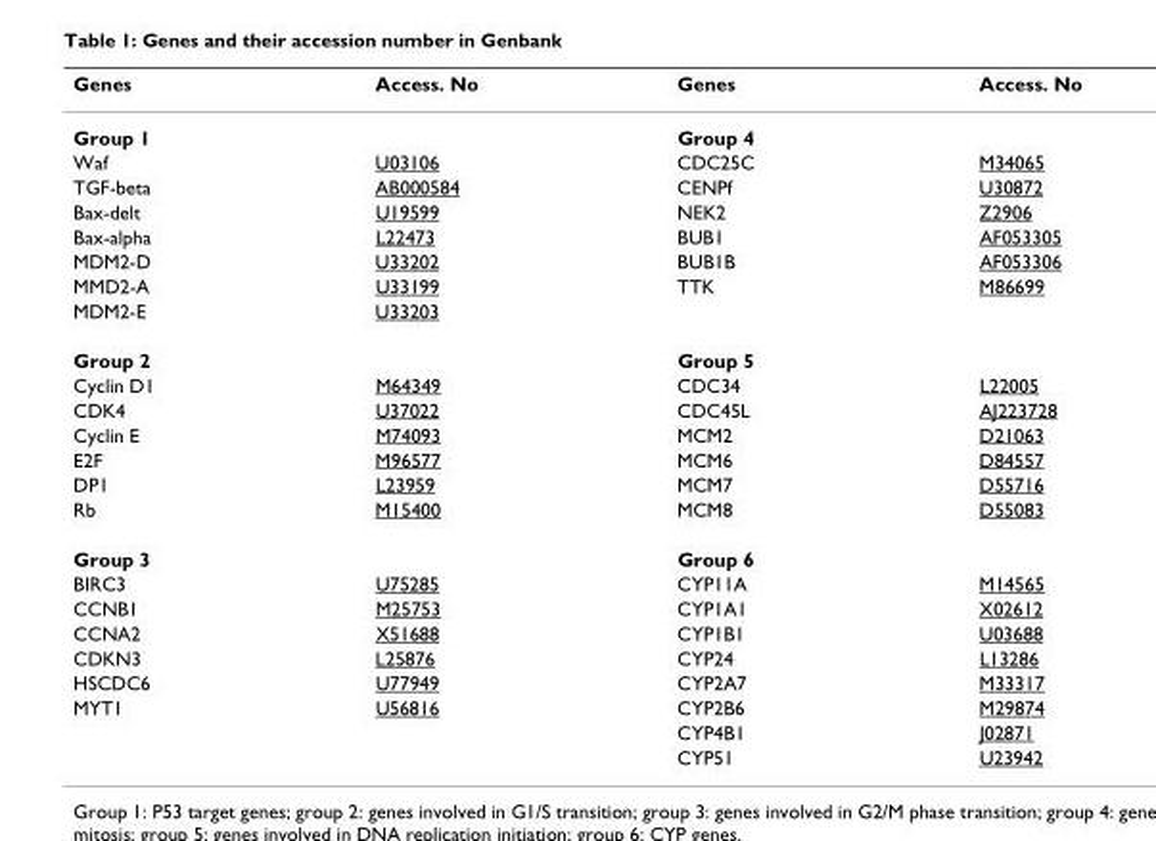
<table><thead><tr><td>Genes</td><td>Access. No</td><td>Genes</td><td>Access. No</td></tr></thead><tbody><tr><td>Group 1</td><td></td><td>Group 4</td><td></td></tr><tr><td>Waf</td><td>U03106</td><td>CDC25C</td><td>M34065</td></tr><tr><td>TGF-beta</td><td>AB000584</td><td>CENPf</td><td>U30872</td></tr><tr><td>Bax-delt</td><td>U19599</td><td>NEK2</td><td>Z2906</td></tr><tr><td>Bax-alpha</td><td>L22473</td><td>BUB1</td><td>AF053305</td></tr><tr><td>MDM2-D</td><td>U33202</td><td>BUB1B</td><td>AF053306</td></tr><tr><td>MMD2-A</td><td>U33199</td><td>TTK</td><td>M86699</td></tr><tr><td>MDM2-E</td><td>U33203</td><td></td><td></td></tr><tr><td>Group 2</td><td></td><td>Group 5</td><td></td></tr><tr><td>Cyclin D1</td><td>M64349</td><td>CDC34</td><td>L22005</td></tr><tr><td>CDK4</td><td>U37022</td><td>CDC45L</td><td>AJ223728</td></tr><tr><td>Cyclin E</td><td>M74093</td><td>MCM2</td><td>D21063</td></tr><tr><td>E2F</td><td>M96577</td><td>MCM6</td><td>D84557</td></tr><tr><td>DP1</td><td>L23959</td><td>MCM7</td><td>D55716</td></tr><tr><td>Rb</td><td>M15400</td><td>MCM8</td><td>D55083</td></tr><tr><td>Group 3</td><td></td><td>Group 6</td><td></td></tr><tr><td>BIRC3</td><td>U75285</td><td>CYP11A</td><td>M14565</td></tr><tr><td>CCNB1</td><td>M25753</td><td>CYP1A1</td><td>X02612</td></tr><tr><td>CCNA2</td><td>X51688</td><td>CYP1B1</td><td>U03688</td></tr><tr><td>CDKN3</td><td>L25876</td><td>CYP24</td><td>L13286</td></tr><tr><td>HSCDC6</td><td>U77949</td><td>CYP2A7</td><td>M33317</td></tr><tr><td rowspan="3">MYT1</td><td>U56816</td><td>CYP2B6</td><td>M29874</td></tr><tr><td></td><td>CYP4B1</td><td>J02871</td></tr><tr><td></td><td>CYP51</td><td>U23942</td></tr></tbody></table>